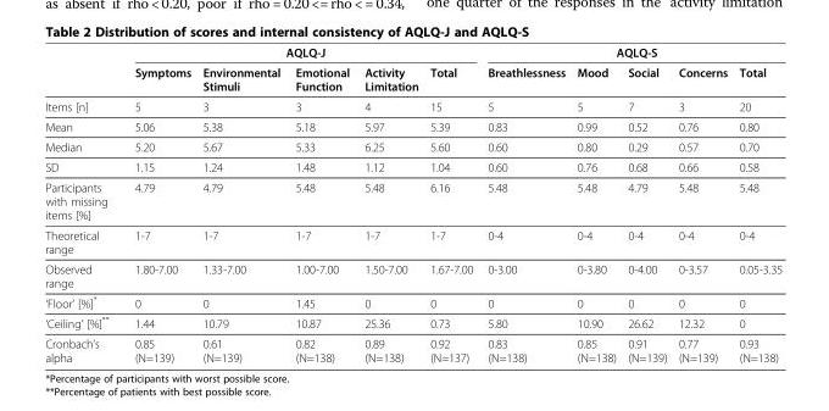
<table><thead><tr><td rowspan="2"></td><td colspan="5">AQLQ-J</td><td colspan="5">AQLQ-S</td></tr><tr><td>Symptoms</td><td>Environmental Stimuli</td><td>Emotional Function</td><td>Activity Limitation</td><td>Total</td><td>Breathlessness</td><td>Mood</td><td>Social</td><td>Concerns</td><td>Total</td></tr></thead><tbody><tr><td>Items [n]</td><td>5</td><td>3</td><td>3</td><td>4</td><td>15</td><td>5</td><td>5</td><td>7</td><td>3</td><td>20</td></tr><tr><td>Mean</td><td>5.06</td><td>5.38</td><td>5.18</td><td>5.97</td><td>5.39</td><td>0.83</td><td>0.99</td><td>0.52</td><td>0.76</td><td>0.80</td></tr><tr><td>Median</td><td>5.20</td><td>5.67</td><td>5.33</td><td>6.25</td><td>5.60</td><td>0.60</td><td>0.80</td><td>0.29</td><td>0.57</td><td>0.70</td></tr><tr><td>SD</td><td>1.15</td><td>1.24</td><td>1.48</td><td>1.12</td><td>1.04</td><td>0.60</td><td>0.76</td><td>0.68</td><td>0.66</td><td>0.58</td></tr><tr><td>Participants with missing items [%]</td><td>4.79</td><td>4.79</td><td>5.48</td><td>5.48</td><td>6.16</td><td>5.48</td><td>5.48</td><td>4.79</td><td>5.48</td><td>5.48</td></tr><tr><td>Theoretical range</td><td>1-7</td><td>1-7</td><td>1-7</td><td>1-7</td><td>1-7</td><td>0-4</td><td>0-4</td><td>0-4</td><td>0-4</td><td>0-4</td></tr><tr><td>Observed range</td><td>1.80-7.00</td><td>1.33-7.00</td><td>1.00-7.00</td><td>1.50-7.00</td><td>1.67-7.00</td><td>0-3.00</td><td>0-3.80</td><td>0-4.00</td><td>0-3.57</td><td>0.05-3.35</td></tr><tr><td>‘Floor’ [%]*</td><td>0</td><td>0</td><td>1.45</td><td>0</td><td>0</td><td>0</td><td>0</td><td>0</td><td>0</td><td>0</td></tr><tr><td>‘Ceiling’ [%]**</td><td>1.44</td><td>10.79</td><td>10.87</td><td>25.36</td><td>0.73</td><td>5.80</td><td>10.90</td><td>26.62</td><td>12.32</td><td>0</td></tr><tr><td>Cronbach’s alpha</td><td>0.85 (N=139)</td><td>0.61 (N=139)</td><td>0.82 (N=138)</td><td>0.89 (N=138)</td><td>0.92 (N=137)</td><td>0.83 (N=138)</td><td>0.85 (N=138)</td><td>0.91 (N=139)</td><td>0.77 (N=139)</td><td>0.93 (N=138)</td></tr></tbody></table>